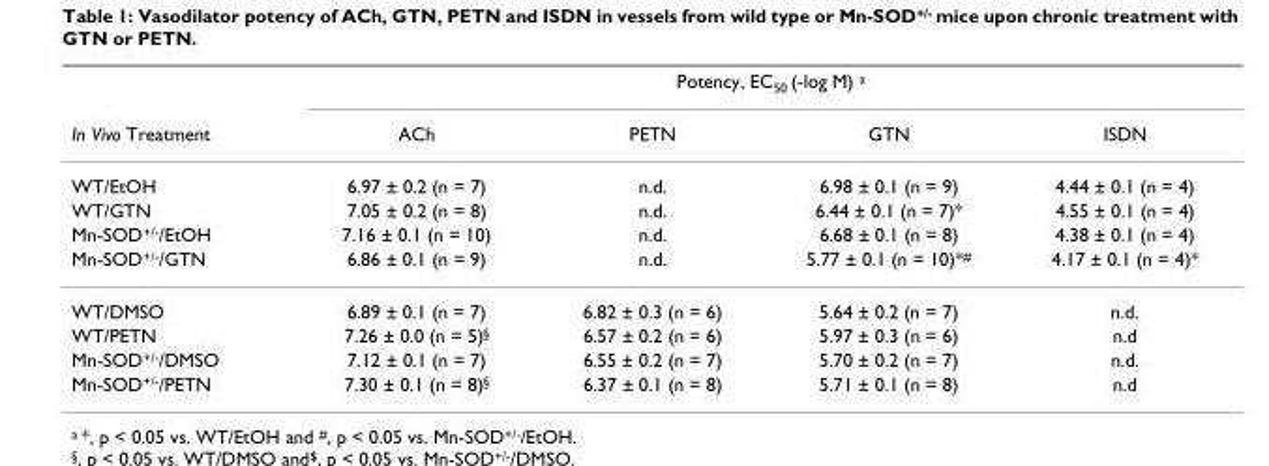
<table><thead><tr><td rowspan="2">In Vivo Treatment</td><td colspan="4">Potency, EC<sub>50</sub> (-log M) <sup>a</sup></td></tr><tr><td>ACh</td><td>PETN</td><td>GTN</td><td>ISDN</td></tr></thead><tbody><tr><td>WT/EtOH</td><td>6.97 ± 0.2 (n = 7)</td><td>n.d.</td><td>6.98 ± 0.1 (n = 9)</td><td>4.44 ± 0.1 (n = 4)</td></tr><tr><td>WT/GTN</td><td>7.05 ± 0.2 (n = 8)</td><td>n.d.</td><td>6.44 ± 0.1 (n = 7)*</td><td>4.55 ± 0.1 (n = 4)</td></tr><tr><td>Mn-SOD<sup>+/-</sup>/EtOH</td><td>7.16 ± 0.1 (n = 10)</td><td>n.d.</td><td>6.68 ± 0.1 (n = 8)</td><td>4.38 ± 0.1 (n = 4)</td></tr><tr><td>Mn-SOD<sup>+/-</sup>/GTN</td><td>6.86 ± 0.1 (n = 9)</td><td>n.d.</td><td>5.77 ± 0.1 (n = 10)*<sup>#</sup></td><td>4.17 ± 0.1 (n = 4)*</td></tr><tr><td>WT/DMSO</td><td>6.89 ± 0.1 (n = 7)</td><td>6.82 ± 0.3 (n = 6)</td><td>5.64 ± 0.2 (n = 7)</td><td>n.d.</td></tr><tr><td>WT/PETN</td><td>7.26 ± 0.0 (n = 5)<sup>§</sup></td><td>6.57 ± 0.2 (n = 6)</td><td>5.97 ± 0.3 (n = 6)</td><td>n.d</td></tr><tr><td>Mn-SOD<sup>+/-</sup>/DMSO</td><td>7.12 ± 0.1 (n = 7)</td><td>6.55 ± 0.2 (n = 7)</td><td>5.70 ± 0.2 (n = 7)</td><td>n.d.</td></tr><tr><td>Mn-SOD<sup>+/-</sup>/PETN</td><td>7.30 ± 0.1 (n = 8)<sup>§</sup></td><td>6.37 ± 0.1 (n = 8)</td><td>5.71 ± 0.1 (n = 8)</td><td>n.d</td></tr></tbody></table>